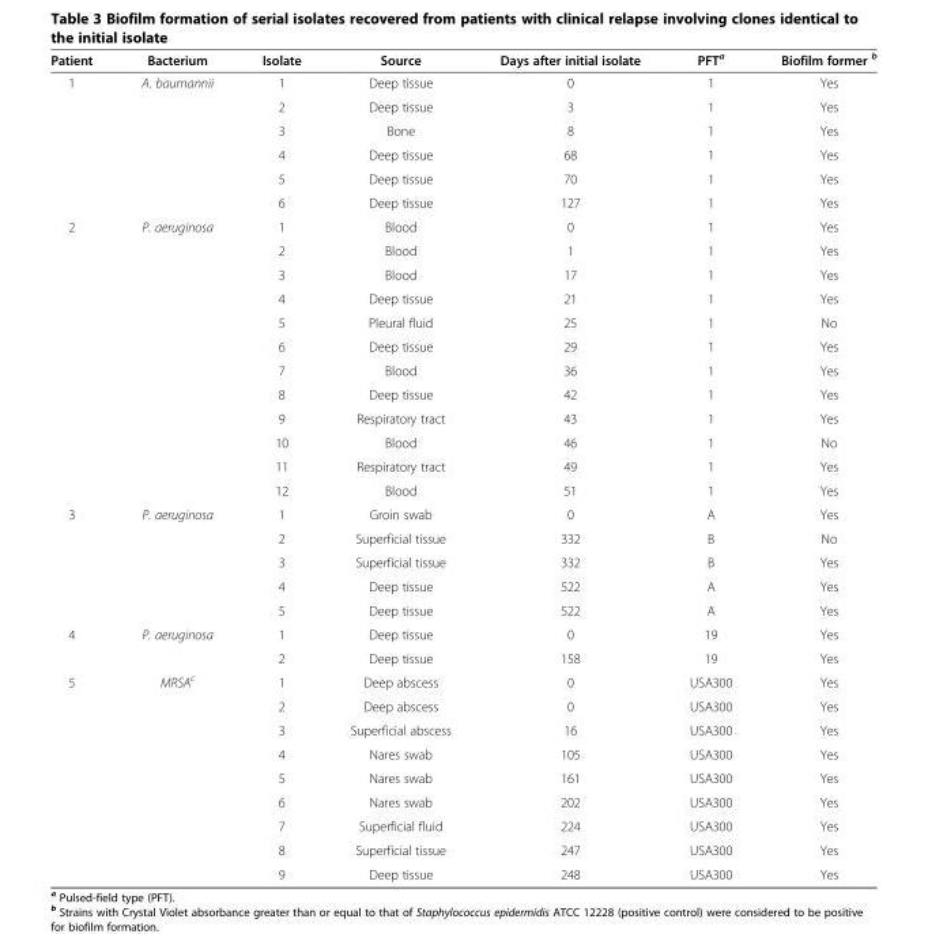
<table><thead><tr><td>Patient</td><td>Bacterium</td><td>Isolate</td><td>Source</td><td>Days after initial isolate</td><td>PFT<sup>a</sup></td><td>Biofilm former <sup>b</sup></td></tr></thead><tbody><tr><td rowspan="6">1</td><td>A. baumannii</td><td>1</td><td>Deep tissue</td><td>0</td><td>1</td><td>Yes</td></tr><tr><td></td><td>2</td><td>Deep tissue</td><td>3</td><td>1</td><td>Yes</td></tr><tr><td></td><td>3</td><td>Bone</td><td>8</td><td>1</td><td>Yes</td></tr><tr><td></td><td>4</td><td>Deep tissue</td><td>68</td><td>1</td><td>Yes</td></tr><tr><td></td><td>5</td><td>Deep tissue</td><td>70</td><td>1</td><td>Yes</td></tr><tr><td></td><td>6</td><td>Deep tissue</td><td>127</td><td>1</td><td>Yes</td></tr><tr><td rowspan="12">2</td><td>P. aeruginosa</td><td>1</td><td>Blood</td><td>0</td><td>1</td><td>Yes</td></tr><tr><td></td><td>2</td><td>Blood</td><td>1</td><td>1</td><td>Yes</td></tr><tr><td></td><td>3</td><td>Blood</td><td>17</td><td>1</td><td>Yes</td></tr><tr><td></td><td>4</td><td>Deep tissue</td><td>21</td><td>1</td><td>Yes</td></tr><tr><td></td><td>5</td><td>Pleural fluid</td><td>25</td><td>1</td><td>No</td></tr><tr><td></td><td>6</td><td>Deep tissue</td><td>29</td><td>1</td><td>Yes</td></tr><tr><td></td><td>7</td><td>Blood</td><td>36</td><td>1</td><td>Yes</td></tr><tr><td></td><td>8</td><td>Deep tissue</td><td>42</td><td>1</td><td>Yes</td></tr><tr><td></td><td>9</td><td>Respiratory tract</td><td>43</td><td>1</td><td>Yes</td></tr><tr><td></td><td>10</td><td>Blood</td><td>46</td><td>1</td><td>No</td></tr><tr><td></td><td>11</td><td>Respiratory tract</td><td>49</td><td>1</td><td>Yes</td></tr><tr><td></td><td>12</td><td>Blood</td><td>51</td><td>1</td><td>Yes</td></tr><tr><td rowspan="5">3</td><td>P. aeruginosa</td><td>1</td><td>Groin swab</td><td>0</td><td>A</td><td>Yes</td></tr><tr><td></td><td>2</td><td>Superficial tissue</td><td>332</td><td>B</td><td>No</td></tr><tr><td></td><td>3</td><td>Superficial tissue</td><td>332</td><td>B</td><td>Yes</td></tr><tr><td></td><td>4</td><td>Deep tissue</td><td>522</td><td>A</td><td>Yes</td></tr><tr><td></td><td>5</td><td>Deep tissue</td><td>522</td><td>A</td><td>Yes</td></tr><tr><td rowspan="2">4</td><td>P. aeruginosa</td><td>1</td><td>Deep tissue</td><td>0</td><td>19</td><td>Yes</td></tr><tr><td></td><td>2</td><td>Deep tissue</td><td>158</td><td>19</td><td>Yes</td></tr><tr><td rowspan="9">5</td><td>MRSA<sup>c</sup></td><td>1</td><td>Deep abscess</td><td>0</td><td>USA300</td><td>Yes</td></tr><tr><td></td><td>2</td><td>Deep abscess</td><td>0</td><td>USA300</td><td>Yes</td></tr><tr><td></td><td>3</td><td>Superficial abscess</td><td>16</td><td>USA300</td><td>Yes</td></tr><tr><td></td><td>4</td><td>Nares swab</td><td>105</td><td>USA300</td><td>Yes</td></tr><tr><td></td><td>5</td><td>Nares swab</td><td>161</td><td>USA300</td><td>Yes</td></tr><tr><td></td><td>6</td><td>Nares swab</td><td>202</td><td>USA300</td><td>Yes</td></tr><tr><td></td><td>7</td><td>Superficial fluid</td><td>224</td><td>USA300</td><td>Yes</td></tr><tr><td></td><td>8</td><td>Superficial tissue</td><td>247</td><td>USA300</td><td>Yes</td></tr><tr><td></td><td>9</td><td>Deep tissue</td><td>248</td><td>USA300</td><td>Yes</td></tr></tbody></table>